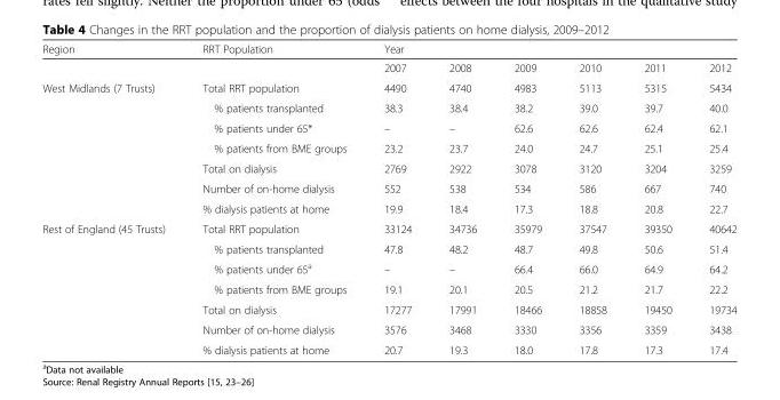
<table><thead><tr><td rowspan="2">Region</td><td rowspan="2">RRT Population</td><td colspan="6">Year</td></tr><tr><td>2007</td><td>2008</td><td>2009</td><td>2010</td><td>2011</td><td>2012</td></tr></thead><tbody><tr><td rowspan="7">West Midlands (7 Trusts)</td><td>Total RRT population</td><td>4490</td><td>4740</td><td>4983</td><td>5113</td><td>5315</td><td>5434</td></tr><tr><td>% patients transplanted</td><td>38.3</td><td>38.4</td><td>38.2</td><td>39.0</td><td>39.7</td><td>40.0</td></tr><tr><td>% patients under 65*</td><td>–</td><td>–</td><td>62.6</td><td>62.6</td><td>62.4</td><td>62.1</td></tr><tr><td>% patients from BME groups</td><td>23.2</td><td>23.7</td><td>24.0</td><td>24.7</td><td>25.1</td><td>25.4</td></tr><tr><td>Total on dialysis</td><td>2769</td><td>2922</td><td>3078</td><td>3120</td><td>3204</td><td>3259</td></tr><tr><td>Number of on-home dialysis</td><td>552</td><td>538</td><td>534</td><td>586</td><td>667</td><td>740</td></tr><tr><td>% dialysis patients at home</td><td>19.9</td><td>18.4</td><td>17.3</td><td>18.8</td><td>20.8</td><td>22.7</td></tr><tr><td rowspan="7">Rest of England (45 Trusts)</td><td>Total RRT population</td><td>33124</td><td>34736</td><td>35979</td><td>37547</td><td>39350</td><td>40642</td></tr><tr><td>% patients transplanted</td><td>47.8</td><td>48.2</td><td>48.7</td><td>49.8</td><td>50.6</td><td>51.4</td></tr><tr><td>% patients under 65<sup>a</sup></td><td>–</td><td>–</td><td>66.4</td><td>66.0</td><td>64.9</td><td>64.2</td></tr><tr><td>% patients from BME groups</td><td>19.1</td><td>20.1</td><td>20.5</td><td>21.2</td><td>21.7</td><td>22.2</td></tr><tr><td>Total on dialysis</td><td>17277</td><td>17991</td><td>18466</td><td>18858</td><td>19450</td><td>19734</td></tr><tr><td>Number of on-home dialysis</td><td>3576</td><td>3468</td><td>3330</td><td>3356</td><td>3359</td><td>3438</td></tr><tr><td>% dialysis patients at home</td><td>20.7</td><td>19.3</td><td>18.0</td><td>17.8</td><td>17.3</td><td>17.4</td></tr></tbody></table>